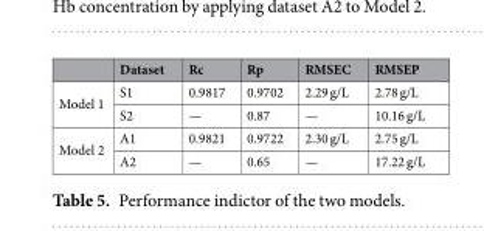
<table><thead><tr><td></td><td>Dataset</td><td>Rc</td><td>Rp</td><td>RMSEC</td><td>RMSEP</td></tr></thead><tbody><tr><td rowspan="2">Model 1</td><td>S1</td><td>0.9817</td><td>0.9702</td><td>2.29 g/L</td><td>2.78 g/L</td></tr><tr><td>S2</td><td>—</td><td>0.87</td><td>—</td><td>10.16 g/L</td></tr><tr><td rowspan="2">Model 2</td><td>A1</td><td>0.9821</td><td>0.9722</td><td>2.30 g/L</td><td>2.75 g/L</td></tr><tr><td>A2</td><td>—</td><td>0.65</td><td>—</td><td>17.22 g/L</td></tr></tbody></table>